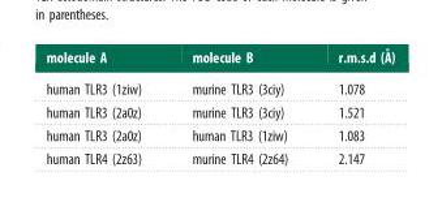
<table><thead><tr><td>molecule A</td><td>molecule B</td><td>r.m.s.d (A˚)</td></tr></thead><tbody><tr><td>human TLR3 (1ziw)</td><td>murine TLR3 (3ciy)</td><td>1.078</td></tr><tr><td>human TLR3 (2a0z)</td><td>murine TLR3 (3ciy)</td><td>1.521</td></tr><tr><td>human TLR3 (2a0z)</td><td>human TLR3 (1ziw)</td><td>1.083</td></tr><tr><td>human TLR4 (2z63)</td><td>murine TLR4 (2z64)</td><td>2.147</td></tr></tbody></table>